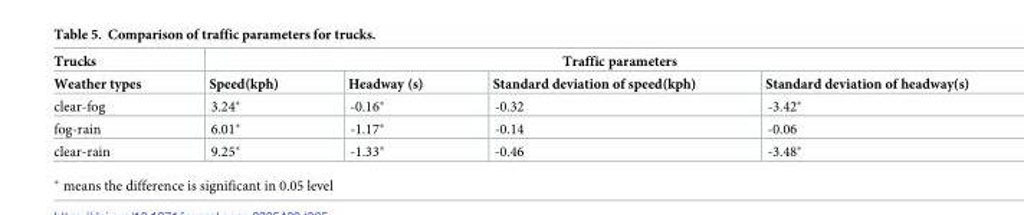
<table><thead><tr><td rowspan="2">Trucks Weather types</td><td colspan="4">Traffic parameters</td></tr><tr><td>Speed(kph)</td><td>Headway (s)</td><td>Standard deviation of speed(kph)</td><td>Standard deviation of headway(s)</td></tr></thead><tbody><tr><td>clear-fog</td><td>3.24*</td><td>-0.16*</td><td>-0.32</td><td>-3.42*</td></tr><tr><td>fog-rain</td><td>6.01*</td><td>-1.17*</td><td>-0.14</td><td>-0.06</td></tr><tr><td>clear-rain</td><td>9.25*</td><td>-1.33*</td><td>-0.46</td><td>-3.48*</td></tr></tbody></table>